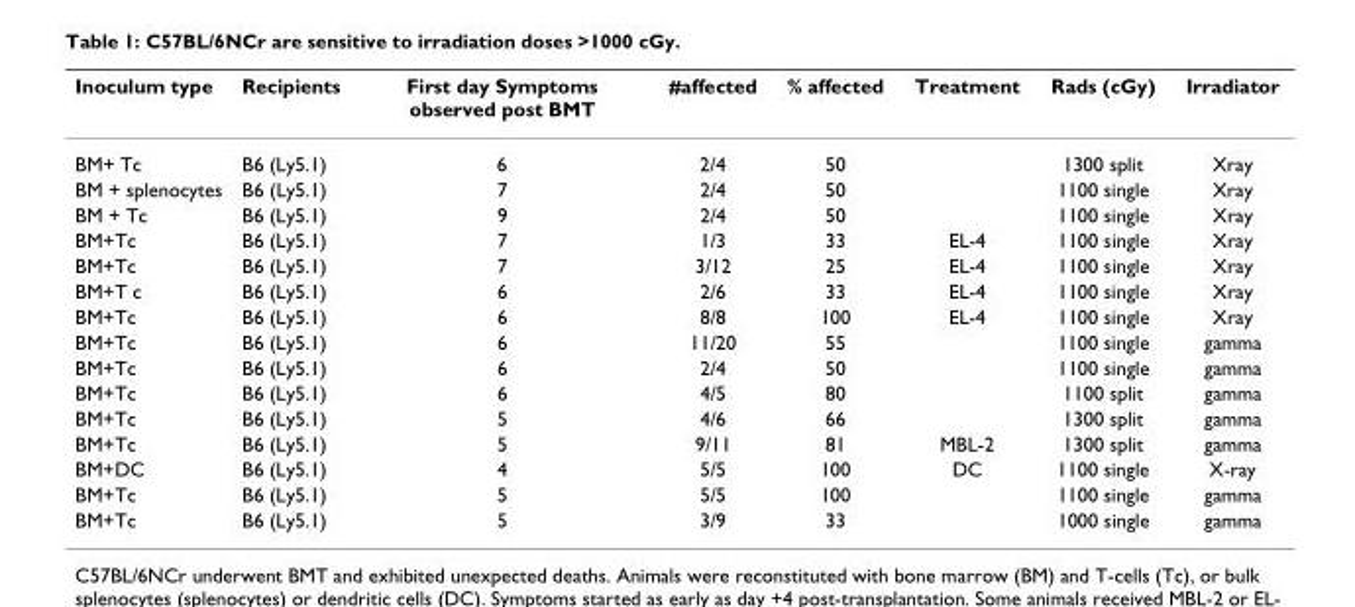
<table><thead><tr><td>Inoculum type</td><td>Recipients</td><td>First day Symptoms observed post BMT</td><td>#affected</td><td>% affected</td><td>Treatment</td><td>Rads (cGy)</td><td>Irradiator</td></tr></thead><tbody><tr><td>BM+ Tc</td><td>B6 (Ly5.1)</td><td>6</td><td>2/4</td><td>50</td><td></td><td>1300 split</td><td>Xray</td></tr><tr><td>BM + splenocytes</td><td>B6 (Ly5.1)</td><td>7</td><td>2/4</td><td>50</td><td></td><td>1100 single</td><td>Xray</td></tr><tr><td>BM + Tc</td><td>B6 (Ly5.1)</td><td>9</td><td>2/4</td><td>50</td><td></td><td>1100 single</td><td>Xray</td></tr><tr><td>BM+Tc</td><td>B6 (Ly5.1)</td><td>7</td><td>1/3</td><td>33</td><td>EL-4</td><td>1100 single</td><td>Xray</td></tr><tr><td>BM+Tc</td><td>B6 (Ly5.1)</td><td>7</td><td>3/12</td><td>25</td><td>EL-4</td><td>1100 single</td><td>Xray</td></tr><tr><td>BM+T c</td><td>B6 (Ly5.1)</td><td>6</td><td>2/6</td><td>33</td><td>EL-4</td><td>1100 single</td><td>Xray</td></tr><tr><td>BM+Tc</td><td>B6 (Ly5.1)</td><td>6</td><td>8/8</td><td>100</td><td>EL-4</td><td>1100 single</td><td>Xray</td></tr><tr><td>BM+Tc</td><td>B6 (Ly5.1)</td><td>6</td><td>11/20</td><td>55</td><td></td><td>1100 single</td><td>gamma</td></tr><tr><td>BM+Tc</td><td>B6 (Ly5.1)</td><td>6</td><td>2/4</td><td>50</td><td></td><td>1100 single</td><td>gamma</td></tr><tr><td>BM+Tc</td><td>B6 (Ly5.1)</td><td>6</td><td>4/5</td><td>80</td><td></td><td>1100 split</td><td>gamma</td></tr><tr><td>BM+Tc</td><td>B6 (Ly5.1)</td><td>5</td><td>4/6</td><td>66</td><td></td><td>1300 split</td><td>gamma</td></tr><tr><td>BM+Tc</td><td>B6 (Ly5.1)</td><td>5</td><td>9/11</td><td>81</td><td>MBL-2</td><td>1300 split</td><td>gamma</td></tr><tr><td>BM+DC</td><td>B6 (Ly5.1)</td><td>4</td><td>5/5</td><td>100</td><td>DC</td><td>1100 single</td><td>X-ray</td></tr><tr><td>BM+Tc</td><td>B6 (Ly5.1)</td><td>5</td><td>5/5</td><td>100</td><td></td><td>1100 single</td><td>gamma</td></tr><tr><td>BM+Tc</td><td>B6 (Ly5.1)</td><td>5</td><td>3/9</td><td>33</td><td></td><td>1000 single</td><td>gamma</td></tr></tbody></table>